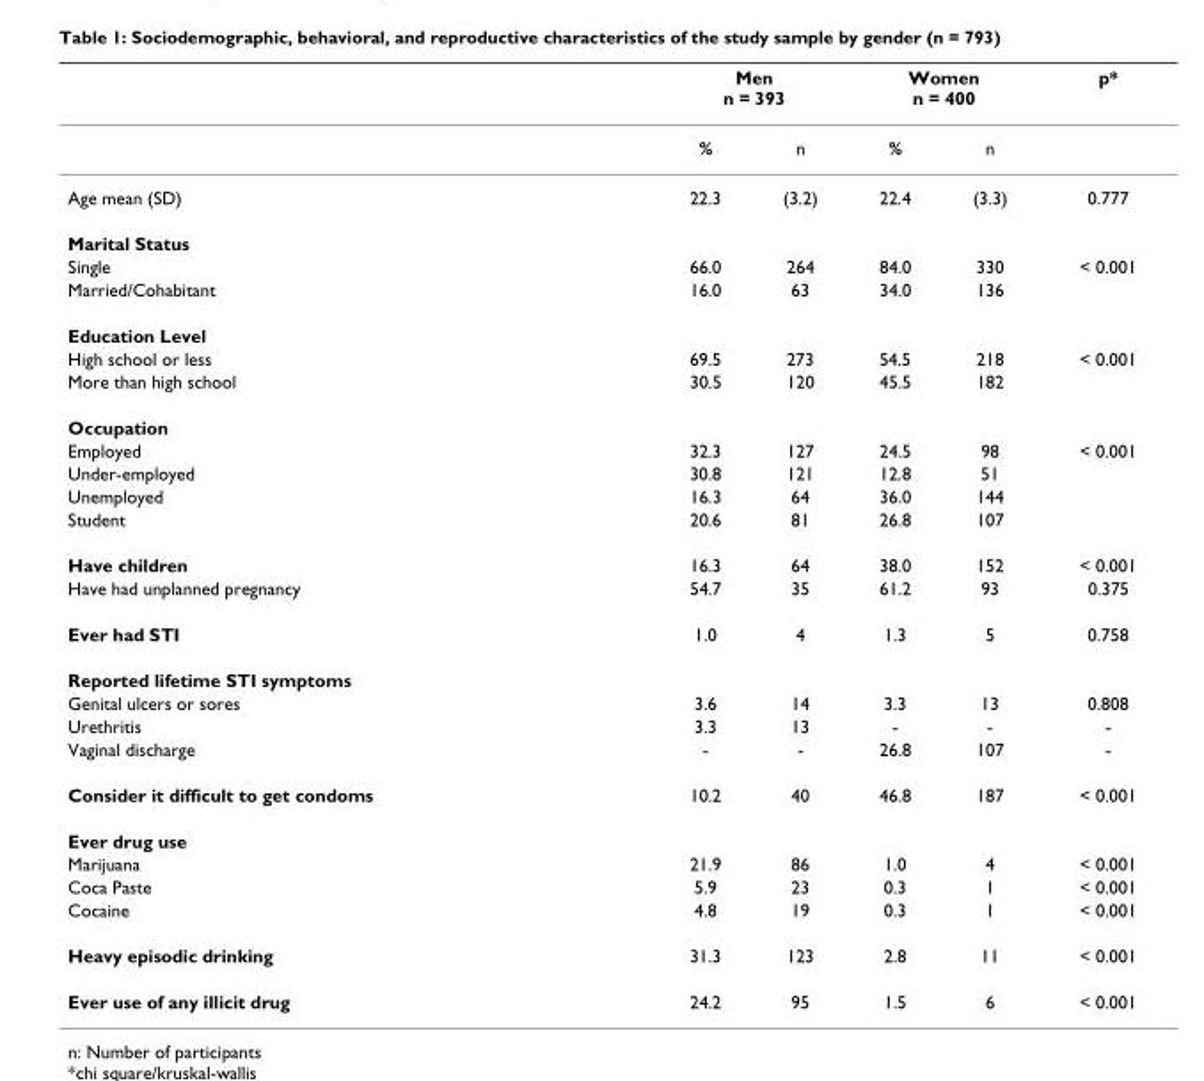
<table><thead><tr><td rowspan="2"></td><td colspan="2">Men n = 393</td><td colspan="2">Women n = 400</td><td rowspan="2">p*</td></tr><tr><td>%</td><td>n</td><td>%</td><td>n</td></tr></thead><tbody><tr><td>Age mean (SD)</td><td>22.3</td><td>(3.2)</td><td>22.4</td><td>(3.3)</td><td>0.777</td></tr><tr><td colspan="6">Marital Status</td></tr><tr><td>Single</td><td>66.0</td><td>264</td><td>84.0</td><td>330</td><td>&lt; 0.001</td></tr><tr><td>Married/Cohabitant</td><td>16.0</td><td>63</td><td>34.0</td><td>136</td><td></td></tr><tr><td colspan="6">Education Level</td></tr><tr><td>High school or less</td><td>69.5</td><td>273</td><td>54.5</td><td>218</td><td>&lt; 0.001</td></tr><tr><td>More than high school</td><td>30.5</td><td>120</td><td>45.5</td><td>182</td><td></td></tr><tr><td colspan="6">Occupation</td></tr><tr><td>Employed</td><td>32.3</td><td>127</td><td>24.5</td><td>98</td><td>&lt; 0.001</td></tr><tr><td>Under-employed</td><td>30.8</td><td>121</td><td>12.8</td><td>51</td><td></td></tr><tr><td>Unemployed</td><td>16.3</td><td>64</td><td>36.0</td><td>144</td><td></td></tr><tr><td>Student</td><td>20.6</td><td>81</td><td>26.8</td><td>107</td><td></td></tr><tr><td>Have children</td><td>16.3</td><td>64</td><td>38.0</td><td>152</td><td>&lt; 0.001</td></tr><tr><td>Have had unplanned pregnancy</td><td>54.7</td><td>35</td><td>61.2</td><td>93</td><td>0.375</td></tr><tr><td>Ever had STI</td><td>1.0</td><td>4</td><td>1.3</td><td>5</td><td>0.758</td></tr><tr><td colspan="6">Reported lifetime STI symptoms</td></tr><tr><td>Genital ulcers or sores</td><td>3.6</td><td>14</td><td>3.3</td><td>13</td><td>0.808</td></tr><tr><td>Urethritis</td><td>3.3</td><td>13</td><td>-</td><td>-</td><td>-</td></tr><tr><td>Vaginal discharge</td><td>-</td><td>-</td><td>26.8</td><td>107</td><td>-</td></tr><tr><td>Consider it difficult to get condoms</td><td>10.2</td><td>40</td><td>46.8</td><td>187</td><td>&lt; 0.001</td></tr><tr><td colspan="6">Ever drug use</td></tr><tr><td>Marijuana</td><td>21.9</td><td>86</td><td>1.0</td><td>4</td><td>&lt; 0.001</td></tr><tr><td>Coca Paste</td><td>5.9</td><td>23</td><td>0.3</td><td>1</td><td>&lt; 0.001</td></tr><tr><td>Cocaine</td><td>4.8</td><td>19</td><td>0.3</td><td>1</td><td>&lt; 0.001</td></tr><tr><td>Heavy episodic drinking</td><td>31.3</td><td>123</td><td>2.8</td><td>11</td><td>&lt; 0.001</td></tr><tr><td>Ever use of any illicit drug</td><td>24.2</td><td>95</td><td>1.5</td><td>6</td><td>&lt; 0.001</td></tr></tbody></table>